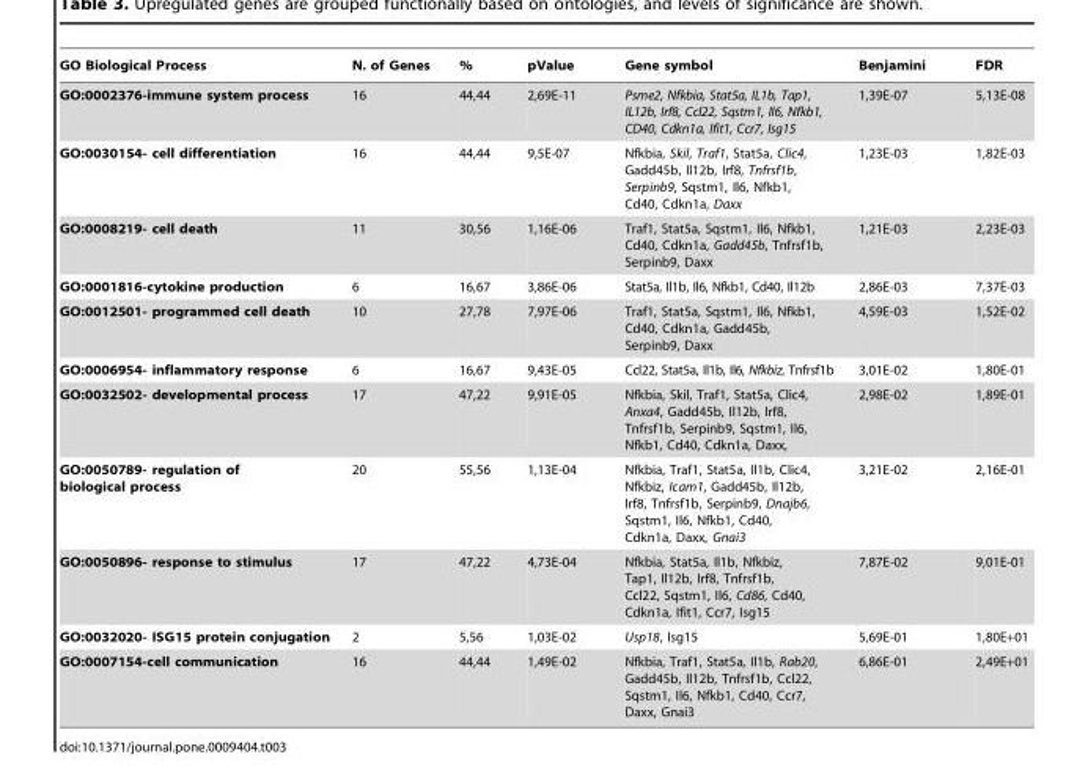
<table><thead><tr><td>GO Biological Process</td><td>N. of Genes</td><td>%</td><td>pValue</td><td>Gene symbol</td><td>Benjamini</td><td>FDR</td></tr></thead><tbody><tr><td>GO:0002376-immune system process</td><td>16</td><td>44,44</td><td>2,69E-11</td><td>Psme2, Nfkbia, Stat5a, IL1b, Tap1, IL12b, Irf8, Ccl22, Sqstm1, Il6, Nfkb1, CD40, Cdkn1a, Ifit1, Ccr7, Isg15</td><td>1,39E-07</td><td>5,13E-08</td></tr><tr><td>GO:0030154- cell differentiation</td><td>16</td><td>44,44</td><td>9,5E-07</td><td>Nfkbia, Skil, Traf1, Stat5a, Clic4, Gadd45b, Il12b, Irf8, Tnfrsf1b, Serpinb9, Sqstm1, Il6, Nfkb1, Cd40, Cdkn1a, Daxx</td><td>1,23E-03</td><td>1,82E-03</td></tr><tr><td>GO:0008219- cell death</td><td>11</td><td>30,56</td><td>1,16E-06</td><td>Traf1, Stat5a, Sqstm1, Il6, Nfkb1, Cd40, Cdkn1a, Gadd45b, Tnfrsf1b, Serpinb9, Daxx</td><td>1,21E-03</td><td>2,23E-03</td></tr><tr><td>GO:0001816-cytokine production</td><td>6</td><td>16,67</td><td>3,86E-06</td><td>Stat5a, Il1b, Il6, Nfkb1, Cd40, Il12b</td><td>2,86E-03</td><td>7,37E-03</td></tr><tr><td>GO:0012501- programmed cell death</td><td>10</td><td>27,78</td><td>7,97E-06</td><td>Traf1, Stat5a, Sqstm1, Il6, Nfkb1, Cd40, Cdkn1a, Gadd45b, Serpinb9, Daxx</td><td>4,59E-03</td><td>1,52E-02</td></tr><tr><td>GO:0006954- inflammatory response</td><td>6</td><td>16,67</td><td>9,43E-05</td><td>Ccl22, Stat5a, Il1b, Il6, Nfkbiz, Tnfrsf1b</td><td>3,01E-02</td><td>1,80E-01</td></tr><tr><td>GO:0032502- developmental process</td><td>17</td><td>47,22</td><td>9,91E-05</td><td>Nfkbia, Skil, Traf1, Stat5a, Clic4, Anxa4, Gadd45b, Il12b, Irf8, Tnfrsf1b, Serpinb9, Sqstm1, Il6, Nfkb1, Cd40, Cdkn1a, Daxx,</td><td>2,98E-02</td><td>1,89E-01</td></tr><tr><td>GO:0050789- regulation of biological process</td><td>20</td><td>55,56</td><td>1,13E-04</td><td>Nfkbia, Traf1, Stat5a, Il1b, Clic4, Nfkbiz, Icam1, Gadd45b, Il12b, Irf8, Tnfrsf1b, Serpinb9, Dnajb6, Sqstm1, Il6, Nfkb1, Cd40, Cdkn1a, Daxx, Gnai3</td><td>3,21E-02</td><td>2,16E-01</td></tr><tr><td>GO:0050896- response to stimulus</td><td>17</td><td>47,22</td><td>4,73E-04</td><td>Nfkbia, Stat5a, Il1b, Nfkbiz, Tap1, Il12b, Irf8, Tnfrsf1b, Ccl22, Sqstm1, Il6, Cd86, Cd40, Cdkn1a, Ifit1, Ccr7, Isg15</td><td>7,87E-02</td><td>9,01E-01</td></tr><tr><td>GO:0032020- ISG15 protein conjugation</td><td>2</td><td>5,56</td><td>1,03E-02</td><td>Usp18, Isg15</td><td>5,69E-01</td><td>1,80E+01</td></tr><tr><td>GO:0007154-cell communication</td><td>16</td><td>44,44</td><td>1,49E-02</td><td>Nfkbia, Traf1, Stat5a, Il1b, Rab20, Gadd45b, Il12b, Tnfrsf1b, Ccl22, Sqstm1, Il6, Nfkb1, Cd40, Ccr7, Daxx, Gnai3</td><td>6,86E-01</td><td>2,49E+01</td></tr></tbody></table>